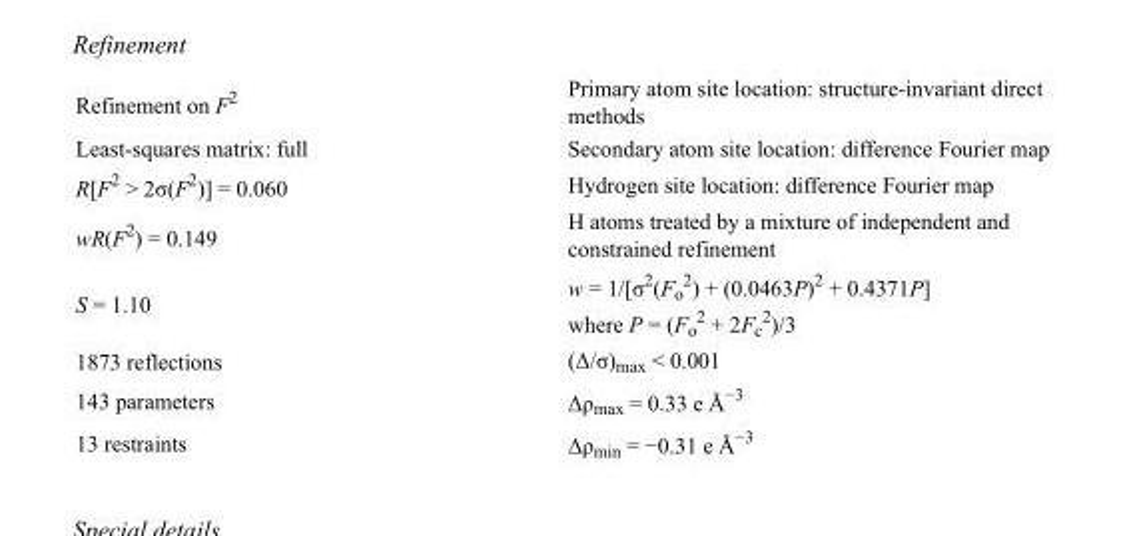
<table><tbody><tr><td>Refinement on F<sup>2</sup></td><td>Primary atom site location: structure-invariant direct methods</td></tr><tr><td>Least-squares matrix: full</td><td>Secondary atom site location: difference Fourier map</td></tr><tr><td>R[F<sup>2</sup> &gt; 2σ(F<sup>2</sup>)] = 0.060</td><td>Hydrogen site location: difference Fourier map</td></tr><tr><td>wR(F<sup>2</sup>) = 0.149</td><td>H atoms treated by a mixture of independent and constrained refinement</td></tr><tr><td>S = 1.10</td><td>w = 1/[σ<sup>2</sup>(F<sub>o</sub> <sup>2</sup>) + (0.0463P)<sup>2</sup> + 0.4371P] where P = (F<sub>o</sub> <sup>2</sup> + 2F<sub>c</sub> <sup>2</sup>)/3</td></tr><tr><td>1873 reflections</td><td>(Δ/σ)<sub>max</sub> &lt; 0.001</td></tr><tr><td>143 parameters</td><td>Δρ<sub>max</sub> = 0.33 e Å<sup>−3</sup></td></tr><tr><td>13 restraints</td><td>Δρ<sub>min</sub> = −0.31 e Å<sup>−3</sup></td></tr></tbody></table>